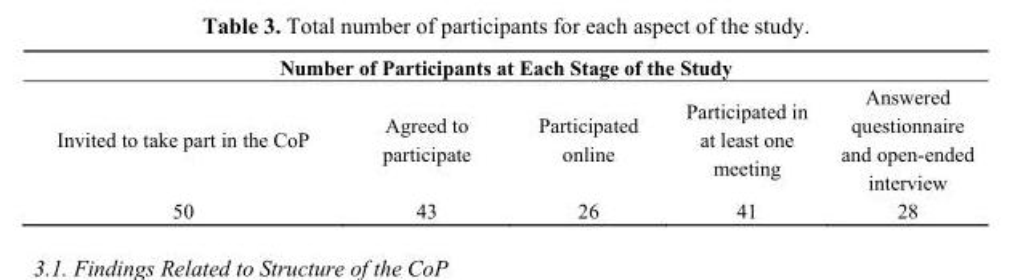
<table><thead><tr><td colspan="5">Number of Participants at Each Stage of the Study</td></tr><tr><td>Invited to take part in the CoP</td><td>Agreed to participate</td><td>Participated online</td><td>Participated in at least one meeting</td><td>Answered questionnaire and open-ended interview</td></tr></thead><tbody><tr><td>50</td><td>43</td><td>26</td><td>41</td><td>28</td></tr></tbody></table>